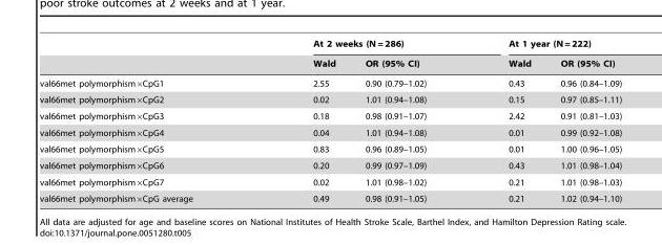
<table><thead><tr><td rowspan="2"></td><td colspan="2">At 2 weeks (N = 286)</td><td colspan="2">At 1 year (N = 222)</td></tr><tr><td>Wald</td><td>OR (95% CI)</td><td>Wald</td><td>OR (95% CI)</td></tr></thead><tbody><tr><td>val66met polymorphism×CpG1</td><td>2.55</td><td>0.90 (0.79–1.02)</td><td>0.43</td><td>0.96 (0.84–1.09)</td></tr><tr><td>val66met polymorphism×CpG2</td><td>0.02</td><td>1.01 (0.94–1.08)</td><td>0.15</td><td>0.97 (0.85–1.11)</td></tr><tr><td>val66met polymorphism×CpG3</td><td>0.18</td><td>0.98 (0.91–1.07)</td><td>2.42</td><td>0.91 (0.81–1.03)</td></tr><tr><td>val66met polymorphism×CpG4</td><td>0.04</td><td>1.01 (0.94–1.08)</td><td>0.01</td><td>0.99 (0.92–1.08)</td></tr><tr><td>val66met polymorphism×CpG5</td><td>0.83</td><td>0.96 (0.89–1.05)</td><td>0.01</td><td>1.00 (0.96–1.05)</td></tr><tr><td>val66met polymorphism×CpG6</td><td>0.20</td><td>0.99 (0.97–1.09)</td><td>0.43</td><td>1.01 (0.98–1.04)</td></tr><tr><td>val66met polymorphism×CpG7</td><td>0.02</td><td>1.01 (0.98–1.02)</td><td>0.21</td><td>1.01 (0.98–1.03)</td></tr><tr><td>val66met polymorphism×CpG average</td><td>0.49</td><td>0.98 (0.91–1.05)</td><td>0.21</td><td>1.02 (0.94–1.10)</td></tr></tbody></table>